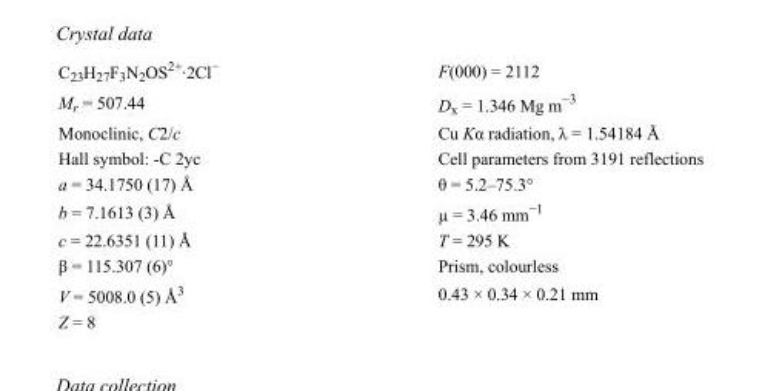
<table><tbody><tr><td>C<sub>23</sub>H<sub>27</sub>F<sub>3</sub>N<sub>2</sub>OS<sup>2+</sup>·2Cl<sup>−</sup></td><td>F(000) = 2112</td></tr><tr><td>M<sub>r</sub> = 507.44</td><td>D<sub>x</sub> = 1.346 Mg m<sup>−3</sup></td></tr><tr><td>Monoclinic, C2/c</td><td>Cu Kα radiation, λ = 1.54184 Å</td></tr><tr><td>Hall symbol: -C 2yc</td><td>Cell parameters from 3191 reflections</td></tr><tr><td>a = 34.1750 (17) Å</td><td>θ = 5.2–75.3°</td></tr><tr><td>b = 7.1613 (3) Å</td><td>µ = 3.46 mm<sup>−1</sup></td></tr><tr><td>c = 22.6351 (11) Å</td><td>T = 295 K</td></tr><tr><td>β = 115.307 (6)°</td><td>Prism, colourless</td></tr><tr><td>V = 5008.0 (5) Å<sup>3</sup></td><td>0.43 × 0.34 × 0.21 mm</td></tr><tr><td>Z = 8</td><td></td></tr></tbody></table>